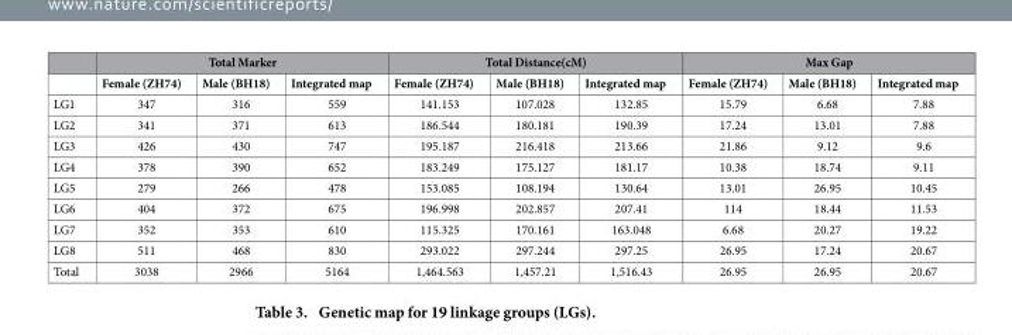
<table><thead><tr><td rowspan="2"></td><td colspan="3">Total Marker</td><td colspan="3">Total Distance(cM)</td><td colspan="3">Max Gap</td></tr><tr><td>Female (ZH74)</td><td>Male (BH18)</td><td>Integrated map</td><td>Female (ZH74)</td><td>Male (BH18)</td><td>Integrated map</td><td>Female (ZH74)</td><td>Male (BH18)</td><td>Integrated map</td></tr></thead><tbody><tr><td>LG1</td><td>347</td><td>316</td><td>559</td><td>141.153</td><td>107.028</td><td>132.85</td><td>15.79</td><td>6.68</td><td>7.88</td></tr><tr><td>LG2</td><td>341</td><td>371</td><td>613</td><td>186.544</td><td>180.181</td><td>190.39</td><td>17.24</td><td>13.01</td><td>7.88</td></tr><tr><td>LG3</td><td>426</td><td>430</td><td>747</td><td>195.187</td><td>216.418</td><td>213.66</td><td>21.86</td><td>9.12</td><td>9.6</td></tr><tr><td>LG4</td><td>378</td><td>390</td><td>652</td><td>183.249</td><td>175.127</td><td>181.17</td><td>10.38</td><td>18.74</td><td>9.11</td></tr><tr><td>LG5</td><td>279</td><td>266</td><td>478</td><td>153.085</td><td>108.194</td><td>130.64</td><td>13.01</td><td>26.95</td><td>10.45</td></tr><tr><td>LG6</td><td>404</td><td>372</td><td>675</td><td>196.998</td><td>202.857</td><td>207.41</td><td>114</td><td>18.44</td><td>11.53</td></tr><tr><td>LG7</td><td>352</td><td>353</td><td>610</td><td>115.325</td><td>170.161</td><td>163.048</td><td>6.68</td><td>20.27</td><td>19.22</td></tr><tr><td>LG8</td><td>511</td><td>468</td><td>830</td><td>293.022</td><td>297.244</td><td>297.25</td><td>26.95</td><td>17.24</td><td>20.67</td></tr><tr><td>Total</td><td>3038</td><td>2966</td><td>5164</td><td>1,464.563</td><td>1,457.21</td><td>1,516.43</td><td>26.95</td><td>26.95</td><td>20.67</td></tr></tbody></table>